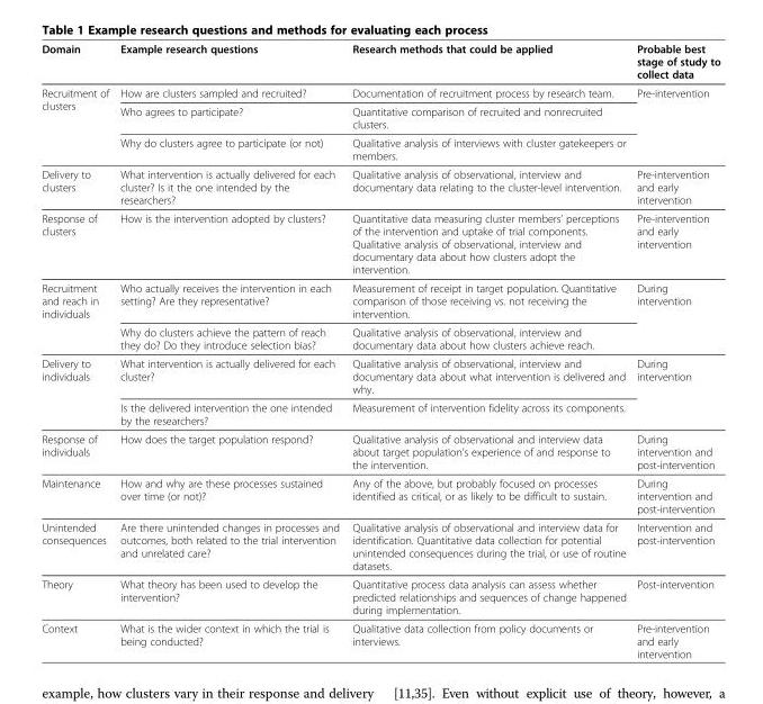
<table><thead><tr><td>Domain</td><td>Example research questions</td><td>Research methods that could be applied</td><td>Probable best stage of study to collect data</td></tr></thead><tbody><tr><td rowspan="3">Recruitment of clusters</td><td>How are clusters sampled and recruited?</td><td>Documentation of recruitment process by research team.</td><td rowspan="3">Pre-intervention</td></tr><tr><td>Who agrees to participate?</td><td>Quantitative comparison of recruited and nonrecruited clusters.</td></tr><tr><td>Why do clusters agree to participate (or not)</td><td>Qualitative analysis of interviews with cluster gatekeepers or members.</td></tr><tr><td>Delivery to clusters</td><td>What intervention is actually delivered for each cluster? Is it the one intended by the researchers?</td><td>Qualitative analysis of observational, interview and documentary data relating to the cluster-level intervention.</td><td>Pre-intervention and early intervention</td></tr><tr><td>Response of clusters</td><td>How is the intervention adopted by clusters?</td><td>Quantitative data measuring cluster members’ perceptions of the intervention and uptake of trial components. Qualitative analysis of observational, interview and documentary data about how clusters adopt the intervention.</td><td>Pre-intervention and early intervention</td></tr><tr><td rowspan="2">Recruitment and reach in individuals</td><td>Who actually receives the intervention in each setting? Are they representative?</td><td>Measurement of receipt in target population. Quantitative comparison of those receiving vs. not receiving the intervention.</td><td rowspan="2">During intervention</td></tr><tr><td>Why do clusters achieve the pattern of reach they do? Do they introduce selection bias?</td><td>Qualitative analysis of observational, interview and documentary data about how clusters achieve reach.</td></tr><tr><td rowspan="2">Delivery to individuals</td><td>What intervention is actually delivered for each cluster?</td><td>Qualitative analysis of observational, interview and documentary data about what intervention is delivered and why.</td><td rowspan="2">During intervention</td></tr><tr><td>Is the delivered intervention the one intended by the researchers?</td><td>Measurement of intervention fidelity across its components.</td></tr><tr><td>Response of individuals</td><td>How does the target population respond?</td><td>Qualitative analysis of observational and interview data about target population’s experience of and response to the intervention.</td><td>During intervention and post-intervention</td></tr><tr><td>Maintenance</td><td>How and why are these processes sustained over time (or not)?</td><td>Any of the above, but probably focused on processes identified as critical, or as likely to be difficult to sustain.</td><td>During intervention and post-intervention</td></tr><tr><td>Unintended consequences</td><td>Are there unintended changes in processes and outcomes, both related to the trial intervention and unrelated care?</td><td>Qualitative analysis of observational and interview data for identification. Quantitative data collection for potential unintended consequences during the trial, or use of routine datasets.</td><td>Intervention and post-intervention</td></tr><tr><td>Theory</td><td>What theory has been used to develop the intervention?</td><td>Quantitative process data analysis can assess whether predicted relationships and sequences of change happened during implementation.</td><td>Post-intervention</td></tr><tr><td>Context</td><td>What is the wider context in which the trial is being conducted?</td><td>Qualitative data collection from policy documents or interviews.</td><td>Pre-intervention and early intervention</td></tr></tbody></table>